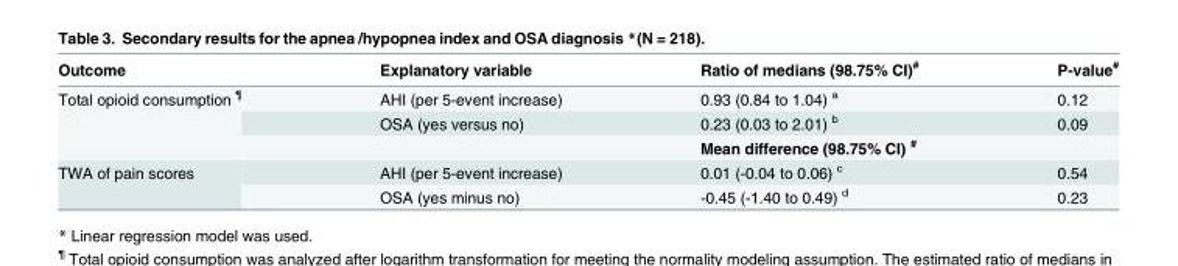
<table><thead><tr><td>Outcome</td><td>Explanatory variable</td><td>Ratio of medians (98.75% CI)<sup>#</sup></td><td>P-value<sup>#</sup></td></tr></thead><tbody><tr><td rowspan="3">Total opioid consumption <sup>¶</sup></td><td>AHI (per 5-event increase)</td><td>0.93 (0.84 to 1.04) <sup>a</sup></td><td>0.12</td></tr><tr><td>OSA (yes versus no)</td><td>0.23 (0.03 to 2.01) <sup>b</sup></td><td>0.09</td></tr><tr><td></td><td>Mean difference (98.75% CI) <sup>#</sup></td><td></td></tr><tr><td rowspan="2">TWA of pain scores</td><td>AHI (per 5-event increase)</td><td>0.01 (-0.04 to 0.06) <sup>c</sup></td><td>0.54</td></tr><tr><td>OSA (yes minus no)</td><td>-0.45 (-1.40 to 0.49) <sup>d</sup></td><td>0.23</td></tr></tbody></table>